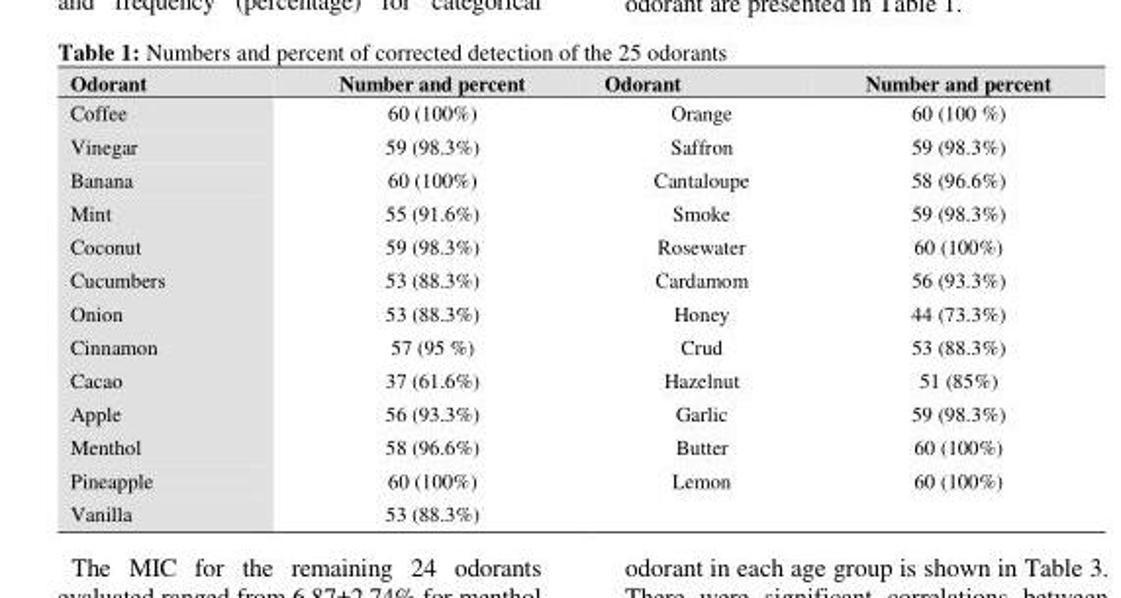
<table><thead><tr><td>Odorant</td><td>Number and percent</td><td>Odorant</td><td>Number and percent</td></tr></thead><tbody><tr><td>Coffee</td><td>60 (100%)</td><td>Orange</td><td>60 (100 %)</td></tr><tr><td>Vinegar</td><td>59 (98.3%)</td><td>Saffron</td><td>59 (98.3%)</td></tr><tr><td>Banana</td><td>60 (100%)</td><td>Cantaloupe</td><td>58 (96.6%)</td></tr><tr><td>Mint</td><td>55 (91.6%)</td><td>Smoke</td><td>59 (98.3%)</td></tr><tr><td>Coconut</td><td>59 (98.3%)</td><td>Rosewater</td><td>60 (100%)</td></tr><tr><td>Cucumbers</td><td>53 (88.3%)</td><td>Cardamom</td><td>56 (93.3%)</td></tr><tr><td>Onion</td><td>53 (88.3%)</td><td>Honey</td><td>44 (73.3%)</td></tr><tr><td>Cinnamon</td><td>57 (95 %)</td><td>Crud</td><td>53 (88.3%)</td></tr><tr><td>Cacao</td><td>37 (61.6%)</td><td>Hazelnut</td><td>51 (85%)</td></tr><tr><td>Apple</td><td>56 (93.3%)</td><td>Garlic</td><td>59 (98.3%)</td></tr><tr><td>Menthol</td><td>58 (96.6%)</td><td>Butter</td><td>60 (100%)</td></tr><tr><td>Pineapple</td><td>60 (100%)</td><td>Lemon</td><td>60 (100%)</td></tr><tr><td>Vanilla</td><td>53 (88.3%)</td><td></td><td></td></tr></tbody></table>